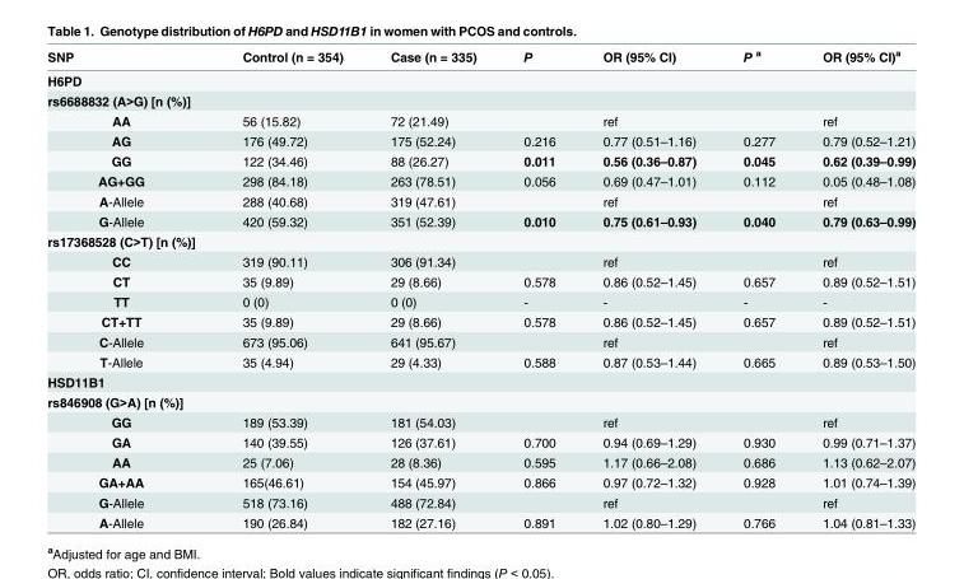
<table><thead><tr><td>SNP</td><td>Control (n = 354)</td><td>Case (n = 335)</td><td>P</td><td>OR (95% CI)</td><td>P <sup>a</sup></td><td>OR (95% CI)<sup>a</sup></td></tr></thead><tbody><tr><td colspan="7">H6PD</td></tr><tr><td colspan="7">rs6688832 (A&gt;G) [n (%)]</td></tr><tr><td>AA</td><td>56 (15.82)</td><td>72 (21.49)</td><td></td><td>ref</td><td></td><td>ref</td></tr><tr><td>AG</td><td>176 (49.72)</td><td>175 (52.24)</td><td>0.216</td><td>0.77 (0.51–1.16)</td><td>0.277</td><td>0.79 (0.52–1.21)</td></tr><tr><td>GG</td><td>122 (34.46)</td><td>88 (26.27)</td><td>0.011</td><td>0.56 (0.36–0.87)</td><td>0.045</td><td>0.62 (0.39–0.99)</td></tr><tr><td>AG+GG</td><td>298 (84.18)</td><td>263 (78.51)</td><td>0.056</td><td>0.69 (0.47–1.01)</td><td>0.112</td><td>0.05 (0.48–1.08)</td></tr><tr><td>A-Allele</td><td>288 (40.68)</td><td>319 (47.61)</td><td></td><td>ref</td><td></td><td>ref</td></tr><tr><td>G-Allele</td><td>420 (59.32)</td><td>351 (52.39)</td><td>0.010</td><td>0.75 (0.61–0.93)</td><td>0.040</td><td>0.79 (0.63–0.99)</td></tr><tr><td colspan="7">rs17368528 (C&gt;T) [n (%)]</td></tr><tr><td>CC</td><td>319 (90.11)</td><td>306 (91.34)</td><td></td><td>ref</td><td></td><td>ref</td></tr><tr><td>CT</td><td>35 (9.89)</td><td>29 (8.66)</td><td>0.578</td><td>0.86 (0.52–1.45)</td><td>0.657</td><td>0.89 (0.52–1.51)</td></tr><tr><td>TT</td><td>0 (0)</td><td>0 (0)</td><td>-</td><td>-</td><td>-</td><td>-</td></tr><tr><td>CT+TT</td><td>35 (9.89)</td><td>29 (8.66)</td><td>0.578</td><td>0.86 (0.52–1.45)</td><td>0.657</td><td>0.89 (0.52–1.51)</td></tr><tr><td>C-Allele</td><td>673 (95.06)</td><td>641 (95.67)</td><td></td><td>ref</td><td></td><td>ref</td></tr><tr><td>T-Allele</td><td>35 (4.94)</td><td>29 (4.33)</td><td>0.588</td><td>0.87 (0.53–1.44)</td><td>0.665</td><td>0.89 (0.53–1.50)</td></tr><tr><td colspan="7">HSD11B1</td></tr><tr><td colspan="7">rs846908 (G&gt;A) [n (%)]</td></tr><tr><td>GG</td><td>189 (53.39)</td><td>181 (54.03)</td><td></td><td>ref</td><td></td><td>ref</td></tr><tr><td>GA</td><td>140 (39.55)</td><td>126 (37.61)</td><td>0.700</td><td>0.94 (0.69–1.29)</td><td>0.930</td><td>0.99 (0.71–1.37)</td></tr><tr><td>AA</td><td>25 (7.06)</td><td>28 (8.36)</td><td>0.595</td><td>1.17 (0.66–2.08)</td><td>0.686</td><td>1.13 (0.62–2.07)</td></tr><tr><td>GA+AA</td><td>165(46.61)</td><td>154 (45.97)</td><td>0.866</td><td>0.97 (0.72–1.32)</td><td>0.928</td><td>1.01 (0.74–1.39)</td></tr><tr><td>G-Allele</td><td>518 (73.16)</td><td>488 (72.84)</td><td></td><td>ref</td><td></td><td>ref</td></tr><tr><td>A-Allele</td><td>190 (26.84)</td><td>182 (27.16)</td><td>0.891</td><td>1.02 (0.80–1.29)</td><td>0.766</td><td>1.04 (0.81–1.33)</td></tr></tbody></table>